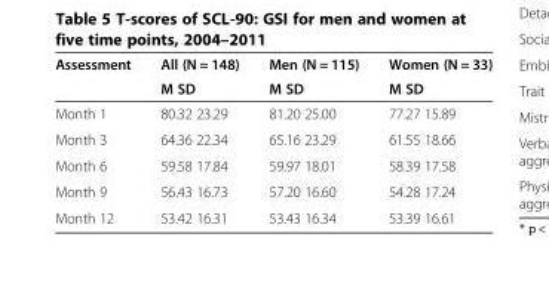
<table><thead><tr><td rowspan="2">Assessment</td><td rowspan="2">All (N = 148) M SD</td><td rowspan="2">Men (N = 115) M SD</td><td rowspan="2">Women (N = 33) M SD</td></tr><tr></tr></thead><tbody><tr><td>Month 1</td><td>80.32 23.29</td><td>81.20 25.00</td><td>77.27 15.89</td></tr><tr><td>Month 3</td><td>64.36 22.34</td><td>65.16 23.29</td><td>61.55 18.66</td></tr><tr><td>Month 6</td><td>59.58 17.84</td><td>59.97 18.01</td><td>58.39 17.58</td></tr><tr><td>Month 9</td><td>56.43 16.73</td><td>57.20 16.60</td><td>54.28 17.24</td></tr><tr><td>Month 12</td><td>53.42 16.31</td><td>53.43 16.34</td><td>53.39 16.61</td></tr></tbody></table>